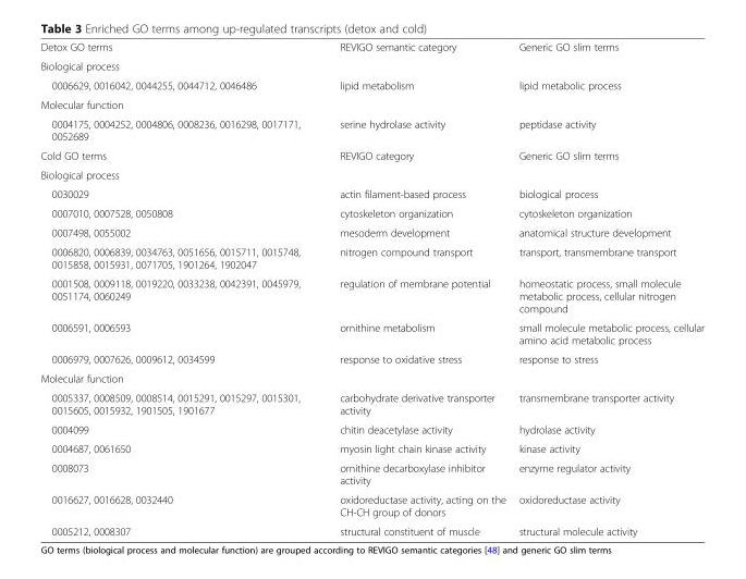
<table><tbody><tr><td>Detox GO terms</td><td>REVIGO semantic category</td><td>Generic GO slim terms</td></tr><tr><td colspan="3">Biological process</td></tr><tr><td>0006629, 0016042, 0044255, 0044712, 0046486</td><td>lipid metabolism</td><td>lipid metabolic process</td></tr><tr><td colspan="3">Molecular function</td></tr><tr><td>0004175, 0004252, 0004806, 0008236, 0016298, 0017171, 0052689</td><td>serine hydrolase activity</td><td>peptidase activity</td></tr><tr><td>Cold GO terms</td><td>REVIGO category</td><td>Generic GO slim terms</td></tr><tr><td colspan="3">Biological process</td></tr><tr><td>0030029</td><td>actin filament-based process</td><td>biological process</td></tr><tr><td>0007010, 0007528, 0050808</td><td>cytoskeleton organization</td><td>cytoskeleton organization</td></tr><tr><td>0007498, 0055002</td><td>mesoderm development</td><td>anatomical structure development</td></tr><tr><td>0006820, 0006839, 0034763, 0051656, 0015711, 0015748, 0015858, 0015931, 0071705, 1901264, 1902047</td><td>nitrogen compound transport</td><td>transport, transmembrane transport</td></tr><tr><td>0001508, 0009118, 0019220, 0033238, 0042391, 0045979, 0051174, 0060249</td><td>regulation of membrane potential</td><td>homeostatic process, small molecule metabolic process, cellular nitrogen compound</td></tr><tr><td>0006591, 0006593</td><td>ornithine metabolism</td><td>small molecule metabolic process, cellular amino acid metabolic process</td></tr><tr><td>0006979, 0007626, 0009612, 0034599</td><td>response to oxidative stress</td><td>response to stress</td></tr><tr><td colspan="3">Molecular function</td></tr><tr><td>0005337, 0008509, 0008514, 0015291, 0015297, 0015301, 0015605, 0015932, 1901505, 1901677</td><td>carbohydrate derivative transporter activity</td><td>transmembrane transporter activity</td></tr><tr><td>0004099</td><td>chitin deacetylase activity</td><td>hydrolase activity</td></tr><tr><td>0004687, 0061650</td><td>myosin light chain kinase activity</td><td>kinase activity</td></tr><tr><td>0008073</td><td>ornithine decarboxylase inhibitor activity</td><td>enzyme regulator activity</td></tr><tr><td>0016627, 0016628, 0032440</td><td>oxidoreductase activity, acting on the CH-CH group of donors</td><td>oxidoreductase activity</td></tr><tr><td>0005212, 0008307</td><td>structural constituent of muscle</td><td>structural molecule activity</td></tr></tbody></table>